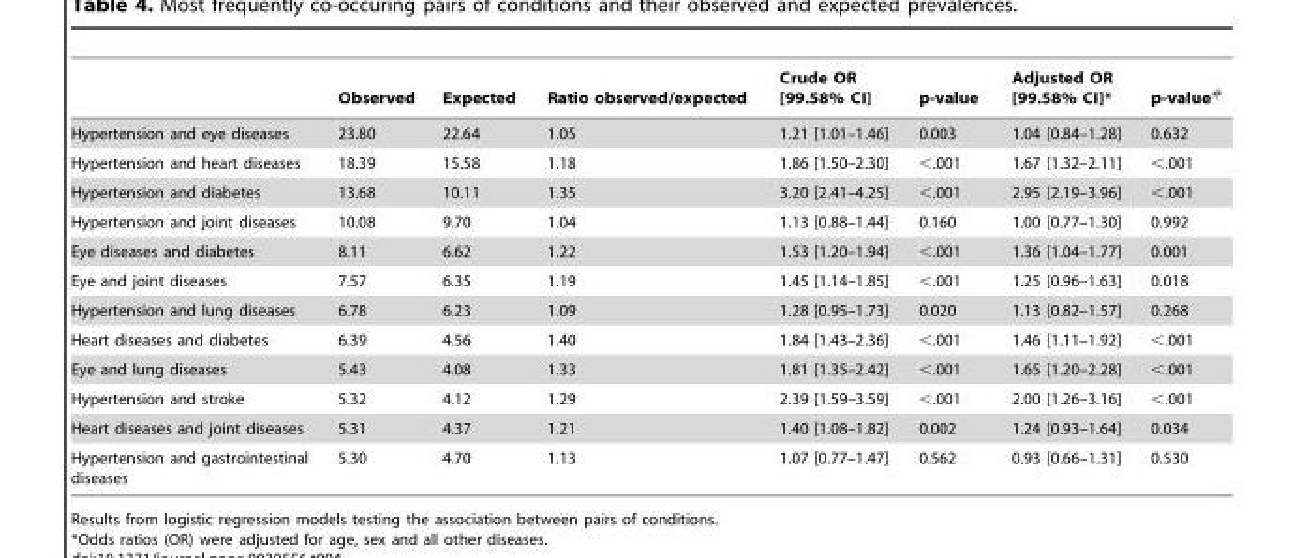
<table><thead><tr><td></td><td>Observed</td><td>Expected</td><td>Ratio observed/expected</td><td>Crude OR [99.58% CI]</td><td>p-value</td><td>Adjusted OR [99.58% CI]*</td><td>p-value<sup>#</sup></td></tr></thead><tbody><tr><td>Hypertension and eye diseases</td><td>23.80</td><td>22.64</td><td>1.05</td><td>1.21 [1.01–1.46]</td><td>0.003</td><td>1.04 [0.84–1.28]</td><td>0.632</td></tr><tr><td>Hypertension and heart diseases</td><td>18.39</td><td>15.58</td><td>1.18</td><td>1.86 [1.50–2.30]</td><td>&lt;.001</td><td>1.67 [1.32–2.11]</td><td>&lt;.001</td></tr><tr><td>Hypertension and diabetes</td><td>13.68</td><td>10.11</td><td>1.35</td><td>3.20 [2.41–4.25]</td><td>&lt;.001</td><td>2.95 [2.19–3.96]</td><td>&lt;.001</td></tr><tr><td>Hypertension and joint diseases</td><td>10.08</td><td>9.70</td><td>1.04</td><td>1.13 [0.88–1.44]</td><td>0.160</td><td>1.00 [0.77–1.30]</td><td>0.992</td></tr><tr><td>Eye diseases and diabetes</td><td>8.11</td><td>6.62</td><td>1.22</td><td>1.53 [1.20–1.94]</td><td>&lt;.001</td><td>1.36 [1.04–1.77]</td><td>0.001</td></tr><tr><td>Eye and joint diseases</td><td>7.57</td><td>6.35</td><td>1.19</td><td>1.45 [1.14–1.85]</td><td>&lt;.001</td><td>1.25 [0.96–1.63]</td><td>0.018</td></tr><tr><td>Hypertension and lung diseases</td><td>6.78</td><td>6.23</td><td>1.09</td><td>1.28 [0.95–1.73]</td><td>0.020</td><td>1.13 [0.82–1.57]</td><td>0.268</td></tr><tr><td>Heart diseases and diabetes</td><td>6.39</td><td>4.56</td><td>1.40</td><td>1.84 [1.43–2.36]</td><td>&lt;.001</td><td>1.46 [1.11–1.92]</td><td>&lt;.001</td></tr><tr><td>Eye and lung diseases</td><td>5.43</td><td>4.08</td><td>1.33</td><td>1.81 [1.35–2.42]</td><td>&lt;.001</td><td>1.65 [1.20–2.28]</td><td>&lt;.001</td></tr><tr><td>Hypertension and stroke</td><td>5.32</td><td>4.12</td><td>1.29</td><td>2.39 [1.59–3.59]</td><td>&lt;.001</td><td>2.00 [1.26–3.16]</td><td>&lt;.001</td></tr><tr><td>Heart diseases and joint diseases</td><td>5.31</td><td>4.37</td><td>1.21</td><td>1.40 [1.08–1.82]</td><td>0.002</td><td>1.24 [0.93–1.64]</td><td>0.034</td></tr><tr><td>Hypertension and gastrointestinal diseases</td><td>5.30</td><td>4.70</td><td>1.13</td><td>1.07 [0.77–1.47]</td><td>0.562</td><td>0.93 [0.66–1.31]</td><td>0.530</td></tr></tbody></table>